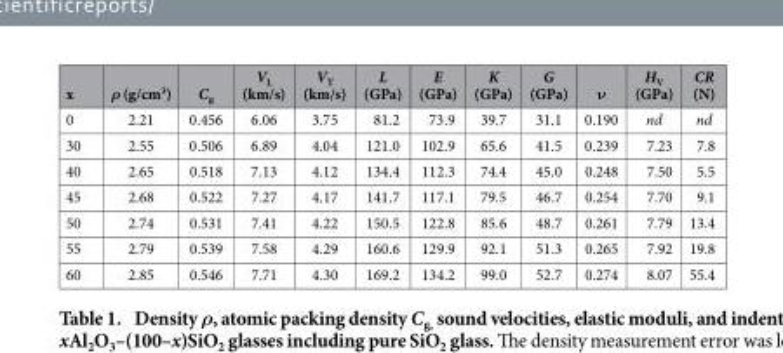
<table><thead><tr><td>x</td><td>ρ (g/cm<sup>3</sup>)</td><td>C<sub>g</sub></td><td>V<sub>L</sub> (km/s)</td><td>V<sub>T</sub> (km/s)</td><td>L (GPa)</td><td>E (GPa)</td><td>K (GPa)</td><td>G (GPa)</td><td>ν</td><td>H<sub>V</sub> (GPa)</td><td>CR (N)</td></tr></thead><tbody><tr><td>0</td><td>2.21</td><td>0.456</td><td>6.06</td><td>3.75</td><td>81.2</td><td>73.9</td><td>39.7</td><td>31.1</td><td>0.190</td><td>nd</td><td>nd</td></tr><tr><td>30</td><td>2.55</td><td>0.506</td><td>6.89</td><td>4.04</td><td>121.0</td><td>102.9</td><td>65.6</td><td>41.5</td><td>0.239</td><td>7.23</td><td>7.8</td></tr><tr><td>40</td><td>2.65</td><td>0.518</td><td>7.13</td><td>4.12</td><td>134.4</td><td>112.3</td><td>74.4</td><td>45.0</td><td>0.248</td><td>7.50</td><td>5.5</td></tr><tr><td>45</td><td>2.68</td><td>0.522</td><td>7.27</td><td>4.17</td><td>141.7</td><td>117.1</td><td>79.5</td><td>46.7</td><td>0.254</td><td>7.70</td><td>9.1</td></tr><tr><td>50</td><td>2.74</td><td>0.531</td><td>7.41</td><td>4.22</td><td>150.5</td><td>122.8</td><td>85.6</td><td>48.7</td><td>0.261</td><td>7.79</td><td>13.4</td></tr><tr><td>55</td><td>2.79</td><td>0.539</td><td>7.58</td><td>4.29</td><td>160.6</td><td>129.9</td><td>92.1</td><td>51.3</td><td>0.265</td><td>7.92</td><td>19.8</td></tr><tr><td>60</td><td>2.85</td><td>0.546</td><td>7.71</td><td>4.30</td><td>169.2</td><td>134.2</td><td>99.0</td><td>52.7</td><td>0.274</td><td>8.07</td><td>55.4</td></tr></tbody></table>